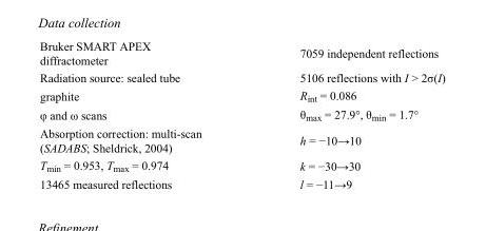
<table><tbody><tr><td>Bruker SMART APEX diffractometer</td><td>7059 independent reflections</td></tr><tr><td>Radiation source: sealed tube</td><td>5106 reflections with I &gt; 2σ(I)</td></tr><tr><td>graphite</td><td>R<sub>int</sub> = 0.086</td></tr><tr><td>φ and ω scans</td><td>θ<sub>max</sub> = 27.9°, θ<sub>min</sub> = 1.7°</td></tr><tr><td>Absorption correction: multi-scan (SADABS; Sheldrick, 2004)</td><td>h = −10→10</td></tr><tr><td>T<sub>min</sub> = 0.953, T<sub>max</sub> = 0.974</td><td>k = −30→30</td></tr><tr><td>13465 measured reflections</td><td>l = −11→9</td></tr></tbody></table>